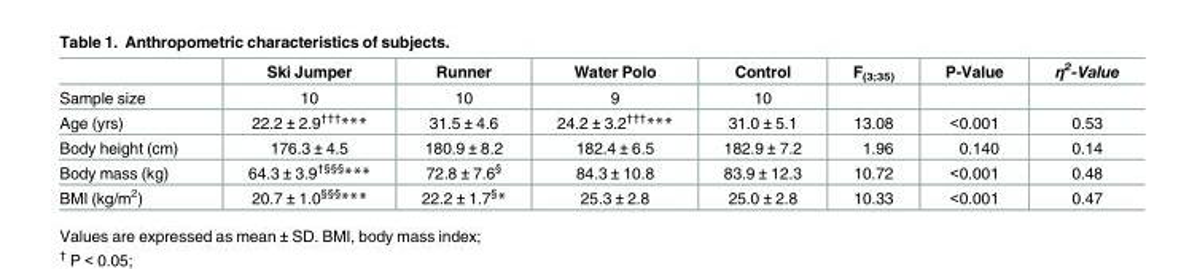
<table><thead><tr><td></td><td>Ski Jumper</td><td>Runner</td><td>Water Polo</td><td>Control</td><td>F<sub>(3;35)</sub></td><td>P-Value</td><td>η<sup>2</sup>-Value</td></tr></thead><tbody><tr><td>Sample size</td><td>10</td><td>10</td><td>9</td><td>10</td><td></td><td></td><td></td></tr><tr><td>Age (yrs)</td><td>22.2 ± 2.9<sup>†††</sup>***</td><td>31.5 ± 4.6</td><td>24.2 ± 3.2<sup>†††</sup>***</td><td>31.0 ± 5.1</td><td>13.08</td><td>&lt;0.001</td><td>0.53</td></tr><tr><td>Body height (cm)</td><td>176.3 ± 4.5</td><td>180.9 ± 8.2</td><td>182.4 ± 6.5</td><td>182.9 ± 7.2</td><td>1.96</td><td>0.140</td><td>0.14</td></tr><tr><td>Body mass (kg)</td><td>64.3 ± 3.9<sup>†§§§</sup>***</td><td>72.8 ± 7.6<sup>§</sup></td><td>84.3 ± 10.8</td><td>83.9 ± 12.3</td><td>10.72</td><td>&lt;0.001</td><td>0.48</td></tr><tr><td>BMI (kg/m<sup>2</sup>)</td><td>20.7 ± 1.0<sup>§§§</sup>***</td><td>22.2 ± 1.7<sup>§</sup>*</td><td>25.3 ± 2.8</td><td>25.0 ± 2.8</td><td>10.33</td><td>&lt;0.001</td><td>0.47</td></tr></tbody></table>